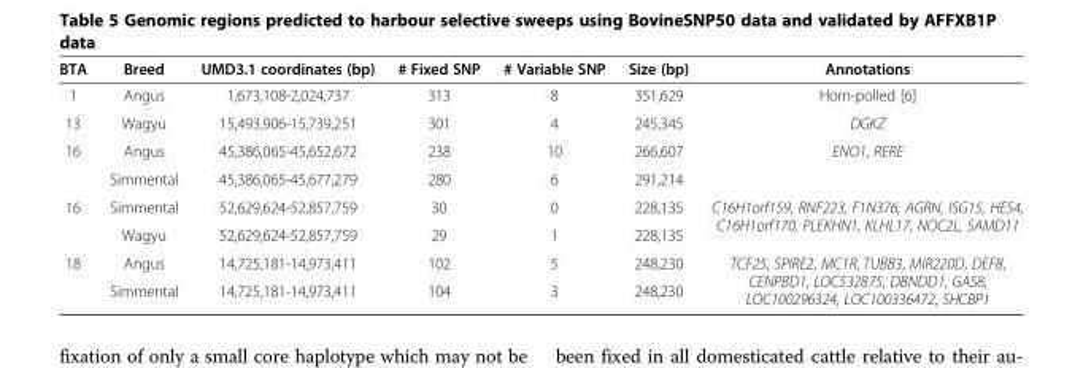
<table><thead><tr><td>BTA</td><td>Breed</td><td>UMD3.1 coordinates (bp)</td><td># Fixed SNP</td><td># Variable SNP</td><td>Size (bp)</td><td>Annotations</td></tr></thead><tbody><tr><td>1</td><td>Angus</td><td>1,673,108-2,024,737</td><td>313</td><td>8</td><td>351,629</td><td>Horn-polled [6]</td></tr><tr><td>13</td><td>Wagyu</td><td>15,493,906-15,739,251</td><td>301</td><td>4</td><td>245,345</td><td>DGKZ</td></tr><tr><td rowspan="2">16</td><td>Angus</td><td>45,386,065-45,652,672</td><td>238</td><td>10</td><td>266,607</td><td rowspan="2">ENO1, RERE</td></tr><tr><td>Simmental</td><td>45,386,065-45,677,279</td><td>280</td><td>6</td><td>291,214</td></tr><tr><td rowspan="2">16</td><td>Simmental</td><td>52,629,624-52,857,759</td><td>30</td><td>0</td><td>228,135</td><td rowspan="2">C16H1orf159, RNF223, F1N376, AGRN, ISG15, HES4, C16H1orf170, PLEKHN1, KLHL17, NOC2L, SAMD11</td></tr><tr><td>Wagyu</td><td>52,629,624-52,857,759</td><td>29</td><td>1</td><td>228,135</td></tr><tr><td rowspan="2">18</td><td>Angus</td><td>14,725,181-14,973,411</td><td>102</td><td>5</td><td>248,230</td><td rowspan="2">TCF25, SPIRE2, MC1R, TUBB3, MIR220D, DEF8, CENPBD1, LOC532875, DBNDD1, GAS8, LOC100296324, LOC100336472, SHCBP1</td></tr><tr><td>Simmental</td><td>14,725,181-14,973,411</td><td>104</td><td>3</td><td>248,230</td></tr></tbody></table>